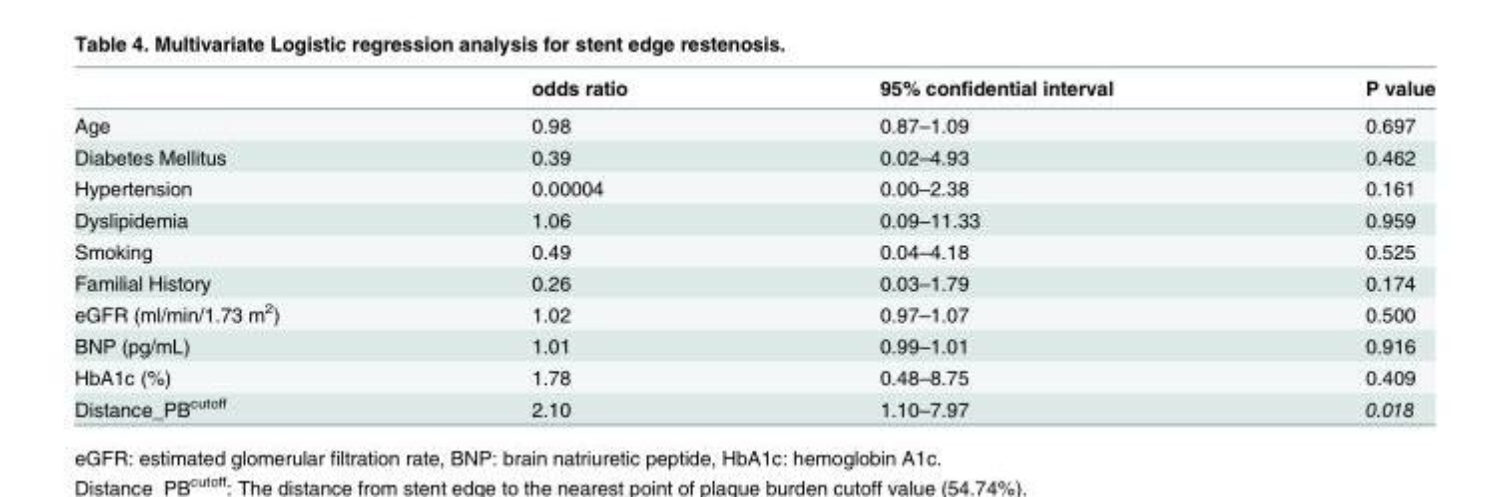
<table><thead><tr><td></td><td>odds ratio</td><td>95% confidential interval</td><td>P value</td></tr></thead><tbody><tr><td>Age</td><td>0.98</td><td>0.87–1.09</td><td>0.697</td></tr><tr><td>Diabetes Mellitus</td><td>0.39</td><td>0.02–4.93</td><td>0.462</td></tr><tr><td>Hypertension</td><td>0.00004</td><td>0.00–2.38</td><td>0.161</td></tr><tr><td>Dyslipidemia</td><td>1.06</td><td>0.09–11.33</td><td>0.959</td></tr><tr><td>Smoking</td><td>0.49</td><td>0.04–4.18</td><td>0.525</td></tr><tr><td>Familial History</td><td>0.26</td><td>0.03–1.79</td><td>0.174</td></tr><tr><td>eGFR (ml/min/1.73 m<sup>2</sup>)</td><td>1.02</td><td>0.97–1.07</td><td>0.500</td></tr><tr><td>BNP (pg/mL)</td><td>1.01</td><td>0.99–1.01</td><td>0.916</td></tr><tr><td>HbA1c (%)</td><td>1.78</td><td>0.48–8.75</td><td>0.409</td></tr><tr><td>Distance_PB<sup>cutoff</sup></td><td>2.10</td><td>1.10–7.97</td><td>0.018</td></tr></tbody></table>